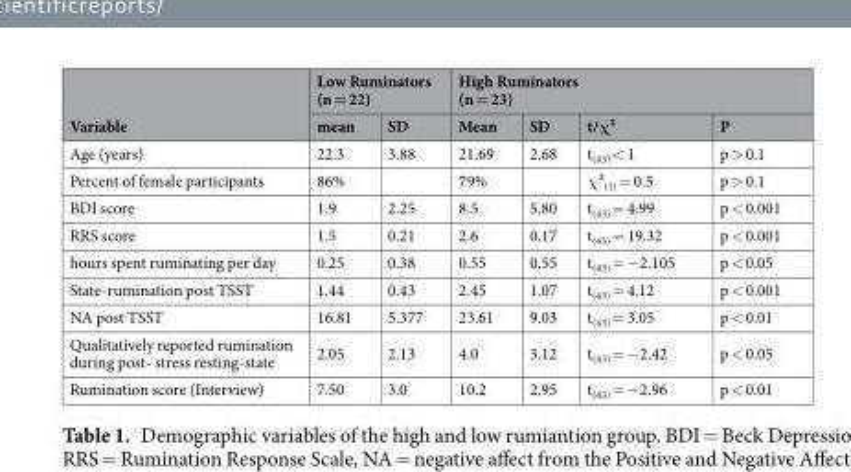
<table><thead><tr><td rowspan="2">Variable</td><td colspan="2">Low Ruminators (n = 22)</td><td colspan="4">High Ruminators (n = 23)</td></tr><tr><td>mean</td><td>SD</td><td>Mean</td><td>SD</td><td>t/χ²</td><td>P</td></tr></thead><tbody><tr><td>Age (years)</td><td>22.3</td><td>3.88</td><td>21.69</td><td>2.68</td><td>t<sub>(43)</sub> &lt; 1</td><td>p &gt; 0.1</td></tr><tr><td>Percent of female participants</td><td>86%</td><td></td><td>79%</td><td></td><td>χ²<sub>(1)</sub> = 0.5</td><td>p &gt; 0.1</td></tr><tr><td>BDI score</td><td>1.9</td><td>2.25</td><td>8.5</td><td>5.80</td><td>t<sub>(43)</sub> = 4.99</td><td>p &lt; 0.001</td></tr><tr><td>RRS score</td><td>1.5</td><td>0.21</td><td>2.6</td><td>0.17</td><td>t<sub>(43)</sub> = 19.32</td><td>p &lt; 0.001</td></tr><tr><td>hours spent ruminating per day</td><td>0.25</td><td>0.38</td><td>0.55</td><td>0.55</td><td>t<sub>(43)</sub> = −2.105</td><td>p &lt; 0.05</td></tr><tr><td>State-rumination post TSST</td><td>1.44</td><td>0.43</td><td>2.45</td><td>1.07</td><td>t<sub>(43)</sub> = 4.12</td><td>p &lt; 0.001</td></tr><tr><td>NA post TSST</td><td>16.81</td><td>5.377</td><td>23.61</td><td>9.03</td><td>t<sub>(43)</sub> = 3.05</td><td>p &lt; 0.01</td></tr><tr><td>Qualitatively reported rumination during post- stress resting-state</td><td>2.05</td><td>2.13</td><td>4.0</td><td>3.12</td><td>t<sub>(43)</sub> = −2.42</td><td>p &lt; 0.05</td></tr><tr><td>Rumination score (Interview)</td><td>7.50</td><td>3.0</td><td>10.2</td><td>2.95</td><td>t<sub>(43)</sub> = −2.96</td><td>p &lt; 0.01</td></tr></tbody></table>